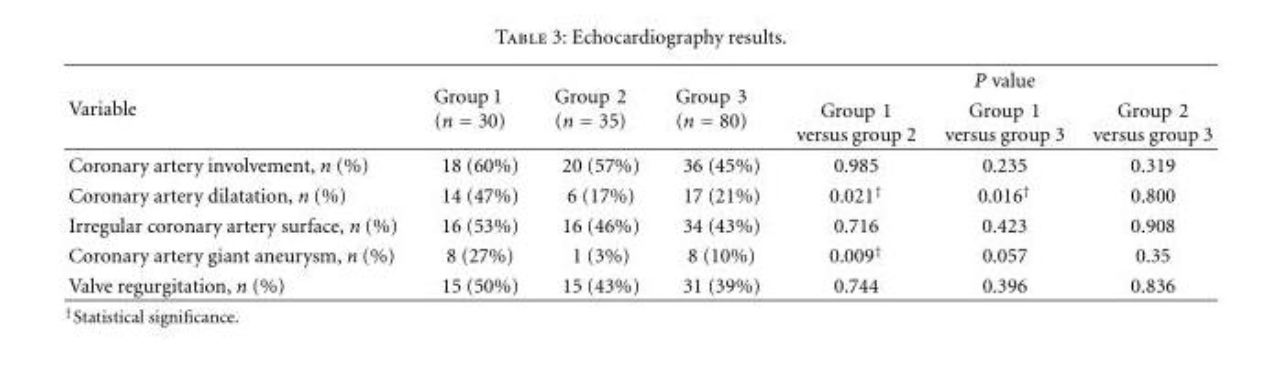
<table><thead><tr><td rowspan="2">Variable</td><td rowspan="2">Group 1 (n = 30)</td><td rowspan="2">Group 2 (n = 35)</td><td rowspan="2">Group 3 (n = 80)</td><td colspan="3">P value</td></tr><tr><td>Group 1 versus group 2</td><td>Group 1 versus group 3</td><td>Group 2 versus group 3</td></tr></thead><tbody><tr><td>Coronary artery involvement, n (%)</td><td>18 (60%)</td><td>20 (57%)</td><td>36 (45%)</td><td>0.985</td><td>0.235</td><td>0.319</td></tr><tr><td>Coronary artery dilatation, n (%)</td><td>14 (47%)</td><td>6 (17%)</td><td>17 (21%)</td><td>0.021<sup>†</sup></td><td>0.016<sup>†</sup></td><td>0.800</td></tr><tr><td>Irregular coronary artery surface, n (%)</td><td>16 (53%)</td><td>16 (46%)</td><td>34 (43%)</td><td>0.716</td><td>0.423</td><td>0.908</td></tr><tr><td>Coronary artery giant aneurysm, n (%)</td><td>8 (27%)</td><td>1 (3%)</td><td>8 (10%)</td><td>0.009<sup>†</sup></td><td>0.057</td><td>0.35</td></tr><tr><td>Valve regurgitation, n (%)</td><td>15 (50%)</td><td>15 (43%)</td><td>31 (39%)</td><td>0.744</td><td>0.396</td><td>0.836</td></tr></tbody></table>